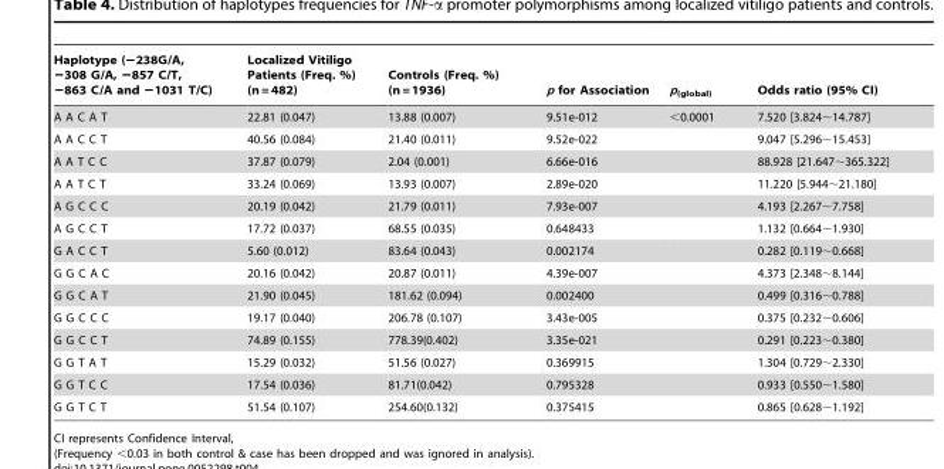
<table><thead><tr><td>Haplotype (−238G/A, −308 G/A, −857 C/T, −863 C/A and −1031 T/C)</td><td>Localized Vitiligo Patients (Freq. %) (n = 482)</td><td>Controls (Freq. %) (n = 1936)</td><td>p for Association</td><td>p<sub>(global)</sub></td><td>Odds ratio (95% CI)</td></tr></thead><tbody><tr><td>A A C A T</td><td>22.81 (0.047)</td><td>13.88 (0.007)</td><td>9.51e-012</td><td>&lt;0.0001</td><td>7.520 [3.824∼14.787]</td></tr><tr><td>A A C C T</td><td>40.56 (0.084)</td><td>21.40 (0.011)</td><td>9.52e-022</td><td></td><td>9.047 [5.296∼15.453]</td></tr><tr><td>A A T C C</td><td>37.87 (0.079)</td><td>2.04 (0.001)</td><td>6.66e-016</td><td></td><td>88.928 [21.647∼365.322]</td></tr><tr><td>A A T C T</td><td>33.24 (0.069)</td><td>13.93 (0.007)</td><td>2.89e-020</td><td></td><td>11.220 [5.944∼21.180]</td></tr><tr><td>A G C C C</td><td>20.19 (0.042)</td><td>21.79 (0.011)</td><td>7.93e-007</td><td></td><td>4.193 [2.267∼7.758]</td></tr><tr><td>A G C C T</td><td>17.72 (0.037)</td><td>68.55 (0.035)</td><td>0.648433</td><td></td><td>1.132 [0.664∼1.930]</td></tr><tr><td>G A C C T</td><td>5.60 (0.012)</td><td>83.64 (0.043)</td><td>0.002174</td><td></td><td>0.282 [0.119∼0.668]</td></tr><tr><td>G G C A C</td><td>20.16 (0.042)</td><td>20.87 (0.011)</td><td>4.39e-007</td><td></td><td>4.373 [2.348∼8.144]</td></tr><tr><td>G G C A T</td><td>21.90 (0.045)</td><td>181.62 (0.094)</td><td>0.002400</td><td></td><td>0.499 [0.316∼0.788]</td></tr><tr><td>G G C C C</td><td>19.17 (0.040)</td><td>206.78 (0.107)</td><td>3.43e-005</td><td></td><td>0.375 [0.232∼0.606]</td></tr><tr><td>G G C C T</td><td>74.89 (0.155)</td><td>778.39(0.402)</td><td>3.35e-021</td><td></td><td>0.291 [0.223∼0.380]</td></tr><tr><td>G G T A T</td><td>15.29 (0.032)</td><td>51.56 (0.027)</td><td>0.369915</td><td></td><td>1.304 [0.729∼2.330]</td></tr><tr><td>G G T C C</td><td>17.54 (0.036)</td><td>81.71(0.042)</td><td>0.795328</td><td></td><td>0.933 [0.550∼1.580]</td></tr><tr><td>G G T C T</td><td>51.54 (0.107)</td><td>254.60(0.132)</td><td>0.375415</td><td></td><td>0.865 [0.628∼1.192]</td></tr></tbody></table>